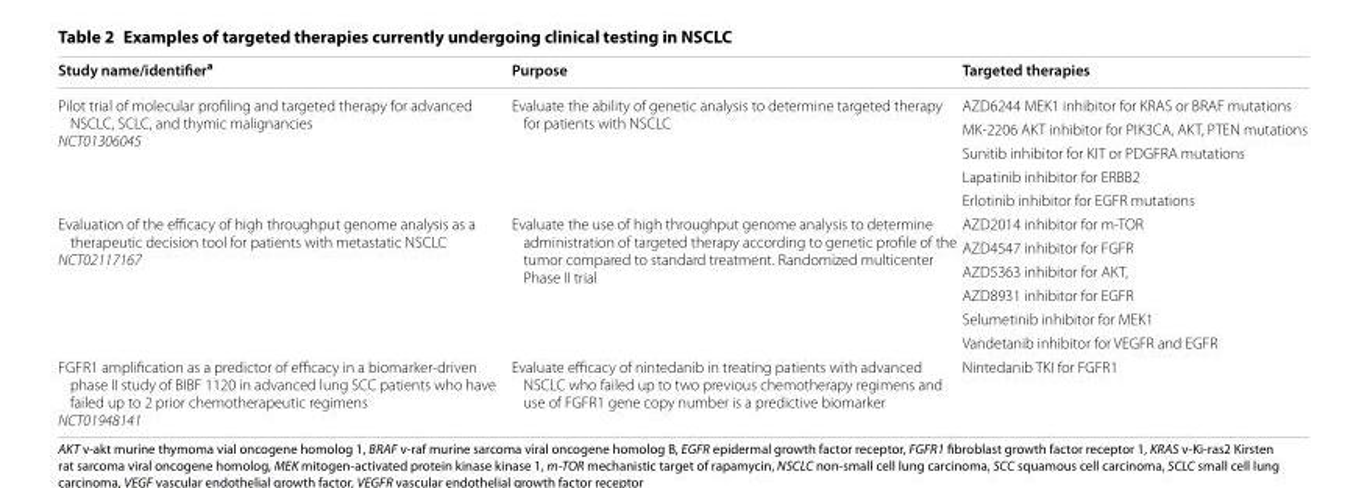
<table><thead><tr><td>Study name/identifier<sup>a</sup></td><td>Purpose</td><td>Targeted therapies</td></tr></thead><tbody><tr><td rowspan="5">Pilot trial of molecular profiling and targeted therapy for advanced NSCLC, SCLC, and thymic malignancies NCT01306045</td><td rowspan="5">Evaluate the ability of genetic analysis to determine targeted therapy for patients with NSCLC</td><td>AZD6244 MEK1 inhibitor for KRAS or BRAF mutations</td></tr><tr><td>MK-2206 AKT inhibitor for PIK3CA, AKT, PTEN mutations</td></tr><tr><td>Sunitib inhibitor for KIT or PDGFRA mutations</td></tr><tr><td>Lapatinib inhibitor for ERBB2</td></tr><tr><td>Erlotinib inhibitor for EGFR mutations</td></tr><tr><td rowspan="6">Evaluation of the efficacy of high throughput genome analysis as a therapeutic decision tool for patients with metastatic NSCLC NCT02117167</td><td rowspan="6">Evaluate the use of high throughput genome analysis to determine administration of targeted therapy according to genetic profile of the tumor compared to standard treatment. Randomized multicenter Phase II trial</td><td>AZD2014 inhibitor for m-TOR</td></tr><tr><td>AZD4547 inhibitor for FGFR</td></tr><tr><td>AZD5363 inhibitor for AKT,</td></tr><tr><td>AZD8931 inhibitor for EGFR</td></tr><tr><td>Selumetinib inhibitor for MEK1</td></tr><tr><td>Vandetanib inhibitor for VEGFR and EGFR</td></tr><tr><td>FGFR1 amplification as a predictor of efficacy in a biomarker-driven phase II study of BIBF 1120 in advanced lung SCC patients who have failed up to 2 prior chemotherapeutic regimens NCT01948141</td><td>Evaluate efficacy of nintedanib in treating patients with advanced NSCLC who failed up to two previous chemotherapy regimens and use of FGFR1 gene copy number is a predictive biomarker</td><td>Nintedanib TKI for FGFR1</td></tr></tbody></table>